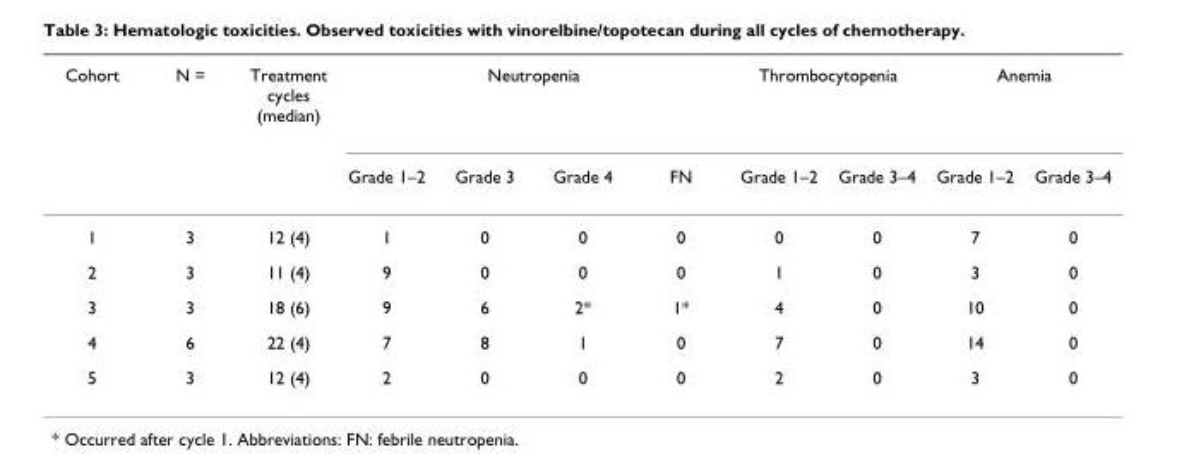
<table><thead><tr><td rowspan="2">Cohort</td><td rowspan="2">N =</td><td rowspan="2">Treatment cycles (median)</td><td colspan="4">Neutropenia</td><td colspan="2">Thrombocytopenia</td><td colspan="2">Anemia</td></tr><tr><td>Grade 1–2</td><td>Grade 3</td><td>Grade 4</td><td>FN</td><td>Grade 1–2</td><td>Grade 3–4</td><td>Grade 1–2</td><td>Grade 3–4</td></tr></thead><tbody><tr><td>1</td><td>3</td><td>12 (4)</td><td>1</td><td>0</td><td>0</td><td>0</td><td>0</td><td>0</td><td>7</td><td>0</td></tr><tr><td>2</td><td>3</td><td>11 (4)</td><td>9</td><td>0</td><td>0</td><td>0</td><td>1</td><td>0</td><td>3</td><td>0</td></tr><tr><td>3</td><td>3</td><td>18 (6)</td><td>9</td><td>6</td><td>2*</td><td>1*</td><td>4</td><td>0</td><td>10</td><td>0</td></tr><tr><td>4</td><td>6</td><td>22 (4)</td><td>7</td><td>8</td><td>1</td><td>0</td><td>7</td><td>0</td><td>14</td><td>0</td></tr><tr><td>5</td><td>3</td><td>12 (4)</td><td>2</td><td>0</td><td>0</td><td>0</td><td>2</td><td>0</td><td>3</td><td>0</td></tr></tbody></table>